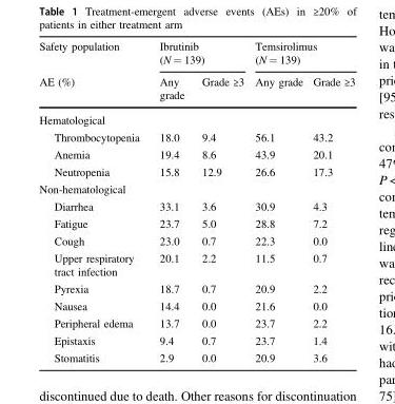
<table><thead><tr><td rowspan="2">Safety population AE (%)</td><td colspan="2">Ibrutinib (N = 139)</td><td colspan="2">Temsirolimus (N = 139)</td></tr><tr><td>Any grade</td><td>Grade ≥3</td><td>Any grade</td><td>Grade ≥3</td></tr></thead><tbody><tr><td colspan="5">Hematological</td></tr><tr><td>Thrombocytopenia</td><td>18.0</td><td>9.4</td><td>56.1</td><td>43.2</td></tr><tr><td>Anemia</td><td>19.4</td><td>8.6</td><td>43.9</td><td>20.1</td></tr><tr><td>Neutropenia</td><td>15.8</td><td>12.9</td><td>26.6</td><td>17.3</td></tr><tr><td colspan="5">Non-hematological</td></tr><tr><td>Diarrhea</td><td>33.1</td><td>3.6</td><td>30.9</td><td>4.3</td></tr><tr><td>Fatigue</td><td>23.7</td><td>5.0</td><td>28.8</td><td>7.2</td></tr><tr><td>Cough</td><td>23.0</td><td>0.7</td><td>22.3</td><td>0.0</td></tr><tr><td>Upper respiratory tract infection</td><td>20.1</td><td>2.2</td><td>11.5</td><td>0.7</td></tr><tr><td>Pyrexia</td><td>18.7</td><td>0.7</td><td>20.9</td><td>2.2</td></tr><tr><td>Nausea</td><td>14.4</td><td>0.0</td><td>21.6</td><td>0.0</td></tr><tr><td>Peripheral edema</td><td>13.7</td><td>0.0</td><td>23.7</td><td>2.2</td></tr><tr><td>Epistaxis</td><td>9.4</td><td>0.7</td><td>23.7</td><td>1.4</td></tr><tr><td>Stomatitis</td><td>2.9</td><td>0.0</td><td>20.9</td><td>3.6</td></tr></tbody></table>